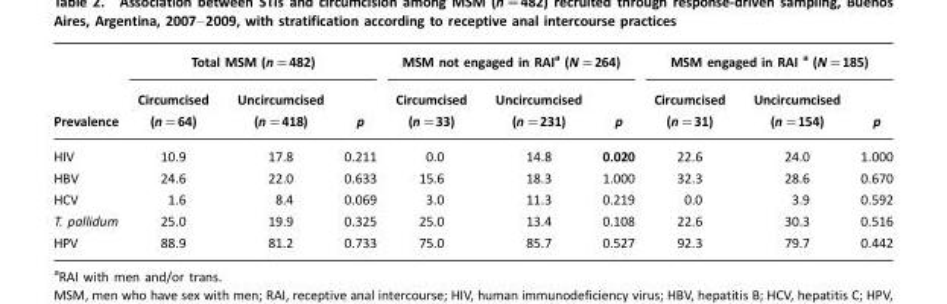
<table><thead><tr><td rowspan="2">Prevalence</td><td colspan="3">Total MSM (n=482)</td><td colspan="3">MSM not engaged in RAI<sup>a</sup> (N=264)</td><td colspan="3">MSM engaged in RAI <sup>a</sup> (N=185)</td></tr><tr><td>Circumcised (n=64)</td><td>Uncircumcised (n=418)</td><td>p</td><td>Circumcised (n=33)</td><td>Uncircumcised (n=231)</td><td>p</td><td>Circumcised (n=31)</td><td>Uncircumcised (n=154)</td><td>p</td></tr></thead><tbody><tr><td>HIV</td><td>10.9</td><td>17.8</td><td>0.211</td><td>0.0</td><td>14.8</td><td>0.020</td><td>22.6</td><td>24.0</td><td>1.000</td></tr><tr><td>HBV</td><td>24.6</td><td>22.0</td><td>0.633</td><td>15.6</td><td>18.3</td><td>1.000</td><td>32.3</td><td>28.6</td><td>0.670</td></tr><tr><td>HCV</td><td>1.6</td><td>8.4</td><td>0.069</td><td>3.0</td><td>11.3</td><td>0.219</td><td>0.0</td><td>3.9</td><td>0.592</td></tr><tr><td>T. pallidum</td><td>25.0</td><td>19.9</td><td>0.325</td><td>25.0</td><td>13.4</td><td>0.108</td><td>22.6</td><td>30.3</td><td>0.516</td></tr><tr><td>HPV</td><td>88.9</td><td>81.2</td><td>0.733</td><td>75.0</td><td>85.7</td><td>0.527</td><td>92.3</td><td>79.7</td><td>0.442</td></tr></tbody></table>